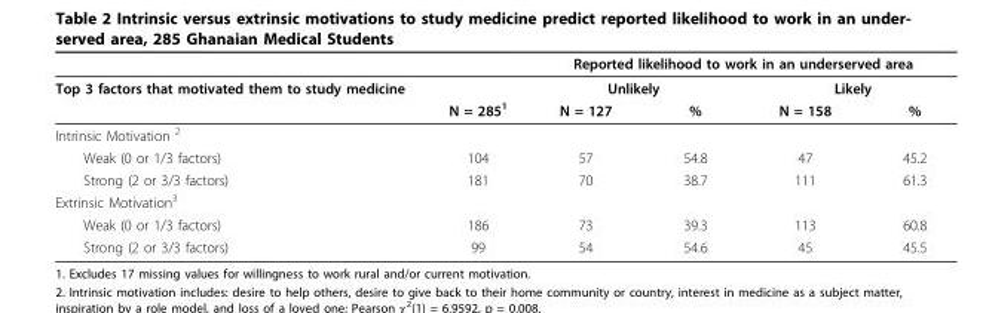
<table><thead><tr><td rowspan="3">Top 3 factors that motivated them to study medicine</td><td rowspan="3">N = 285<sup>1</sup></td><td colspan="4">Reported likelihood to work in an underserved area</td></tr><tr><td colspan="2">Unlikely</td><td colspan="2">Likely</td></tr><tr><td>N = 127</td><td>%</td><td>N = 158</td><td>%</td></tr></thead><tbody><tr><td colspan="6">Intrinsic Motivation <sup>2</sup></td></tr><tr><td>Weak (0 or 1/3 factors)</td><td>104</td><td>57</td><td>54.8</td><td>47</td><td>45.2</td></tr><tr><td>Strong (2 or 3/3 factors)</td><td>181</td><td>70</td><td>38.7</td><td>111</td><td>61.3</td></tr><tr><td colspan="6">Extrinsic Motivation<sup>3</sup></td></tr><tr><td>Weak (0 or 1/3 factors)</td><td>186</td><td>73</td><td>39.3</td><td>113</td><td>60.8</td></tr><tr><td>Strong (2 or 3/3 factors)</td><td>99</td><td>54</td><td>54.6</td><td>45</td><td>45.5</td></tr></tbody></table>